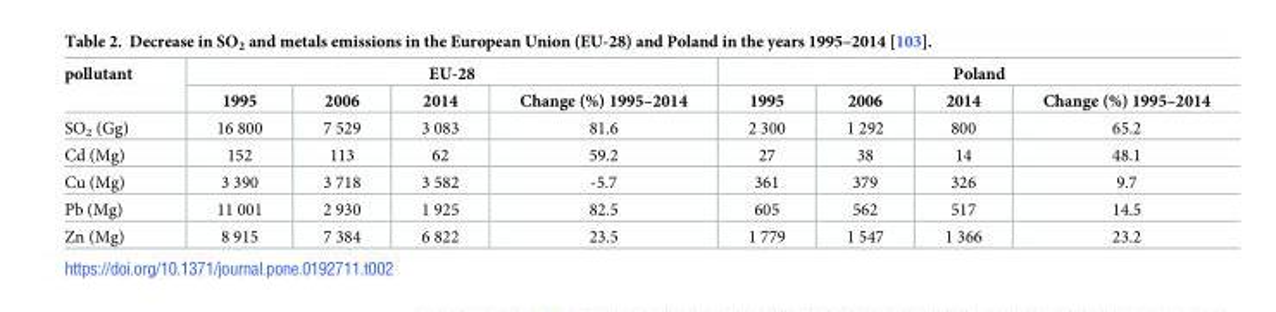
<table><thead><tr><td rowspan="2">pollutant</td><td colspan="4">EU-28</td><td colspan="4">Poland</td></tr><tr><td>1995</td><td>2006</td><td>2014</td><td>Change (%) 1995–2014</td><td>1995</td><td>2006</td><td>2014</td><td>Change (%) 1995–2014</td></tr></thead><tbody><tr><td>SO<sub>2</sub> (Gg)</td><td>16 800</td><td>7 529</td><td>3 083</td><td>81.6</td><td>2 300</td><td>1 292</td><td>800</td><td>65.2</td></tr><tr><td>Cd (Mg)</td><td>152</td><td>113</td><td>62</td><td>59.2</td><td>27</td><td>38</td><td>14</td><td>48.1</td></tr><tr><td>Cu (Mg)</td><td>3 390</td><td>3 718</td><td>3 582</td><td>-5.7</td><td>361</td><td>379</td><td>326</td><td>9.7</td></tr><tr><td>Pb (Mg)</td><td>11 001</td><td>2 930</td><td>1 925</td><td>82.5</td><td>605</td><td>562</td><td>517</td><td>14.5</td></tr><tr><td>Zn (Mg)</td><td>8 915</td><td>7 384</td><td>6 822</td><td>23.5</td><td>1 779</td><td>1 547</td><td>1 366</td><td>23.2</td></tr></tbody></table>